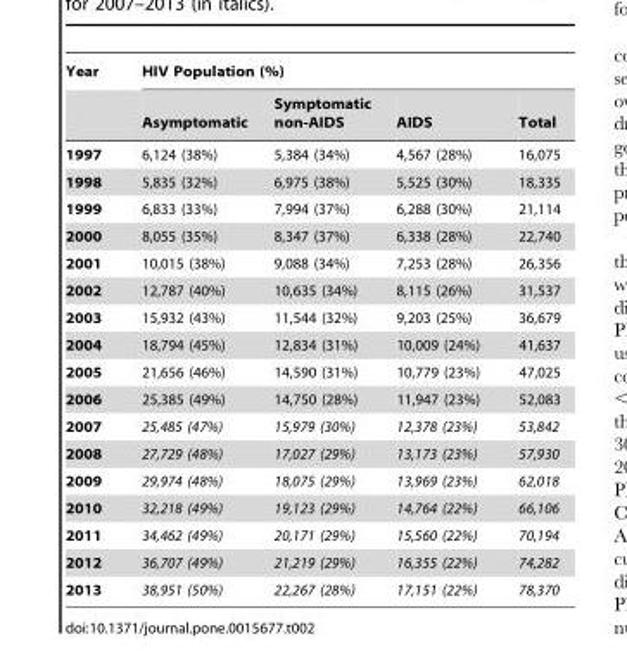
<table><thead><tr><td rowspan="2">Year</td><td colspan="4">HIV Population (%)</td></tr><tr><td>Asymptomatic</td><td>Symptomatic non-AIDS</td><td>AIDS</td><td>Total</td></tr></thead><tbody><tr><td>1997</td><td>6,124 (38%)</td><td>5,384 (34%)</td><td>4,567 (28%)</td><td>16,075</td></tr><tr><td>1998</td><td>5,835 (32%)</td><td>6,975 (38%)</td><td>5,525 (30%)</td><td>18,335</td></tr><tr><td>1999</td><td>6,833 (33%)</td><td>7,994 (37%)</td><td>6,288 (30%)</td><td>21,114</td></tr><tr><td>2000</td><td>8,055 (35%)</td><td>8,347 (37%)</td><td>6,338 (28%)</td><td>22,740</td></tr><tr><td>2001</td><td>10,015 (38%)</td><td>9,088 (34%)</td><td>7,253 (28%)</td><td>26,356</td></tr><tr><td>2002</td><td>12,787 (40%)</td><td>10,635 (34%)</td><td>8,115 (26%)</td><td>31,537</td></tr><tr><td>2003</td><td>15,932 (43%)</td><td>11,544 (32%)</td><td>9,203 (25%)</td><td>36,679</td></tr><tr><td>2004</td><td>18,794 (45%)</td><td>12,834 (31%)</td><td>10,009 (24%)</td><td>41,637</td></tr><tr><td>2005</td><td>21,656 (46%)</td><td>14,590 (31%)</td><td>10,779 (23%)</td><td>47,025</td></tr><tr><td>2006</td><td>25,385 (49%)</td><td>14,750 (28%)</td><td>11,947 (23%)</td><td>52,083</td></tr><tr><td>2007</td><td>25,485 (47%)</td><td>15,979 (30%)</td><td>12,378 (23%)</td><td>53,842</td></tr><tr><td>2008</td><td>27,729 (48%)</td><td>17,027 (29%)</td><td>13,173 (23%)</td><td>57,930</td></tr><tr><td>2009</td><td>29,974 (48%)</td><td>18,075 (29%)</td><td>13,969 (23%)</td><td>62,018</td></tr><tr><td>2010</td><td>32,218 (49%)</td><td>19,123 (29%)</td><td>14,764 (22%)</td><td>66,106</td></tr><tr><td>2011</td><td>34,462 (49%)</td><td>20,171 (29%)</td><td>15,560 (22%)</td><td>70,194</td></tr><tr><td>2012</td><td>36,707 (49%)</td><td>21,219 (29%)</td><td>16,355 (22%)</td><td>74,282</td></tr><tr><td>2013</td><td>38,951 (50%)</td><td>22,267 (28%)</td><td>17,151 (22%)</td><td>78,370</td></tr></tbody></table>